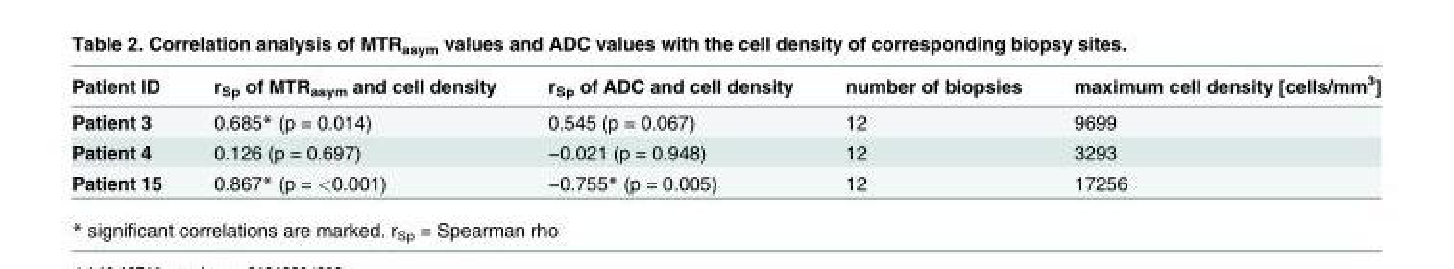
<table><thead><tr><td>Patient ID</td><td>r<sub>Sp</sub> of MTR<sub>asym</sub> and cell density</td><td>r<sub>Sp</sub> of ADC and cell density</td><td>number of biopsies</td><td>maximum cell density [cells/mm<sup>3</sup>]</td></tr></thead><tbody><tr><td>Patient 3</td><td>0.685* (p = 0.014)</td><td>0.545 (p = 0.067)</td><td>12</td><td>9699</td></tr><tr><td>Patient 4</td><td>0.126 (p = 0.697)</td><td>−0.021 (p = 0.948)</td><td>12</td><td>3293</td></tr><tr><td>Patient 15</td><td>0.867* (p = &lt;0.001)</td><td>−0.755* (p = 0.005)</td><td>12</td><td>17256</td></tr></tbody></table>